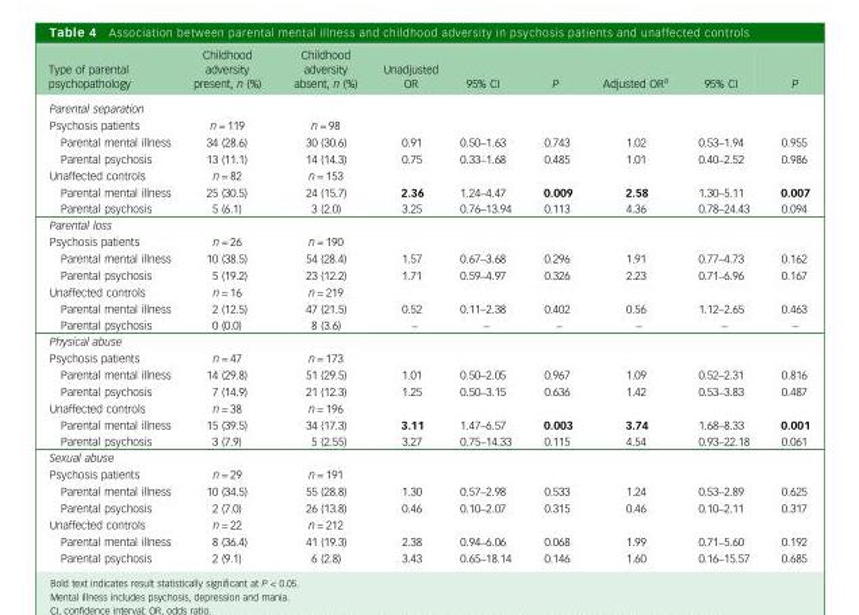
<table><thead><tr><td>Type of parental psychopathology</td><td>Childhood adversity present, n (%)</td><td>Childhood adversity absent, n (%)</td><td>Unadjusted OR</td><td>95% CI</td><td>P</td><td>Adjusted OR<sup>a</sup></td><td>95% CI</td><td>P</td></tr></thead><tbody><tr><td colspan="9">Parental separation</td></tr><tr><td>Psychosis patients</td><td>n = 119</td><td>n = 98</td><td></td><td></td><td></td><td></td><td></td><td></td></tr><tr><td>Parental mental illness</td><td>34 (28.6)</td><td>30 (30.6)</td><td>0.91</td><td>0.50–1.63</td><td>0.743</td><td>1.02</td><td>0.53–1.94</td><td>0.955</td></tr><tr><td>Parental psychosis</td><td>13 (11.1)</td><td>14 (14.3)</td><td>0.75</td><td>0.33–1.68</td><td>0.485</td><td>1.01</td><td>0.40–2.52</td><td>0.986</td></tr><tr><td>Unaffected controls</td><td>n = 82</td><td>n = 153</td><td></td><td></td><td></td><td></td><td></td><td></td></tr><tr><td>Parental mental illness</td><td>25 (30.5)</td><td>24 (15.7)</td><td>2.36</td><td>1.24–4.47</td><td>0.009</td><td>2.58</td><td>1.30–5.11</td><td>0.007</td></tr><tr><td>Parental psychosis</td><td>5 (6.1)</td><td>3 (2.0)</td><td>3.25</td><td>0.76–13.94</td><td>0.113</td><td>4.36</td><td>0.78–24.43</td><td>0.094</td></tr><tr><td colspan="9">Parental loss</td></tr><tr><td>Psychosis patients</td><td>n = 26</td><td>n = 190</td><td></td><td></td><td></td><td></td><td></td><td></td></tr><tr><td>Parental mental illness</td><td>10 (38.5)</td><td>54 (28.4)</td><td>1.57</td><td>0.67–3.68</td><td>0.296</td><td>1.91</td><td>0.77–4.73</td><td>0.162</td></tr><tr><td>Parental psychosis</td><td>5 (19.2)</td><td>23 (12.2)</td><td>1.71</td><td>0.59–4.97</td><td>0.326</td><td>2.23</td><td>0.71–6.96</td><td>0.167</td></tr><tr><td>Unaffected controls</td><td>n = 16</td><td>n = 219</td><td></td><td></td><td></td><td></td><td></td><td></td></tr><tr><td>Parental mental illness</td><td>2 (12.5)</td><td>47 (21.5)</td><td>0.52</td><td>0.11–2.38</td><td>0.402</td><td>0.56</td><td>1.12–2.65</td><td>0.463</td></tr><tr><td>Parental psychosis</td><td>0 (0.0)</td><td>8 (3.6)</td><td>–</td><td>–</td><td>–</td><td>–</td><td>–</td><td>–</td></tr><tr><td colspan="9">Physical abuse</td></tr><tr><td>Psychosis patients</td><td>n = 47</td><td>n = 173</td><td></td><td></td><td></td><td></td><td></td><td></td></tr><tr><td>Parental mental illness</td><td>14 (29.8)</td><td>51 (29.5)</td><td>1.01</td><td>0.50–2.05</td><td>0.967</td><td>1.09</td><td>0.52–2.31</td><td>0.816</td></tr><tr><td>Parental psychosis</td><td>7 (14.9)</td><td>21 (12.3)</td><td>1.25</td><td>0.50–3.15</td><td>0.636</td><td>1.42</td><td>0.53–3.83</td><td>0.487</td></tr><tr><td>Unaffected controls</td><td>n = 38</td><td>n = 196</td><td></td><td></td><td></td><td></td><td></td><td></td></tr><tr><td>Parental mental illness</td><td>15 (39.5)</td><td>34 (17.3)</td><td>3.11</td><td>1.47–6.57</td><td>0.003</td><td>3.74</td><td>1.68–8.33</td><td>0.001</td></tr><tr><td>Parental psychosis</td><td>3 (7.9)</td><td>5 (2.55)</td><td>3.27</td><td>0.75–14.33</td><td>0.115</td><td>4.54</td><td>0.93–22.18</td><td>0.061</td></tr><tr><td colspan="9">Sexual abuse</td></tr><tr><td>Psychosis patients</td><td>n = 29</td><td>n = 191</td><td></td><td></td><td></td><td></td><td></td><td></td></tr><tr><td>Parental mental illness</td><td>10 (34.5)</td><td>55 (28.8)</td><td>1.30</td><td>0.57–2.98</td><td>0.533</td><td>1.24</td><td>0.53–2.89</td><td>0.625</td></tr><tr><td>Parental psychosis</td><td>2 (7.0)</td><td>26 (13.8)</td><td>0.46</td><td>0.10–2.07</td><td>0.315</td><td>0.46</td><td>0.10–2.11</td><td>0.317</td></tr><tr><td>Unaffected controls</td><td>n = 22</td><td>n = 212</td><td></td><td></td><td></td><td></td><td></td><td></td></tr><tr><td>Parental mental illness</td><td>8 (36.4)</td><td>41 (19.3)</td><td>2.38</td><td>0.94–6.06</td><td>0.068</td><td>1.99</td><td>0.71–5.60</td><td>0.192</td></tr><tr><td>Parental psychosis</td><td>2 (9.1)</td><td>6 (2.8)</td><td>3.43</td><td>0.65–18.14</td><td>0.146</td><td>1.60</td><td>0.16–15.57</td><td>0.685</td></tr></tbody></table>